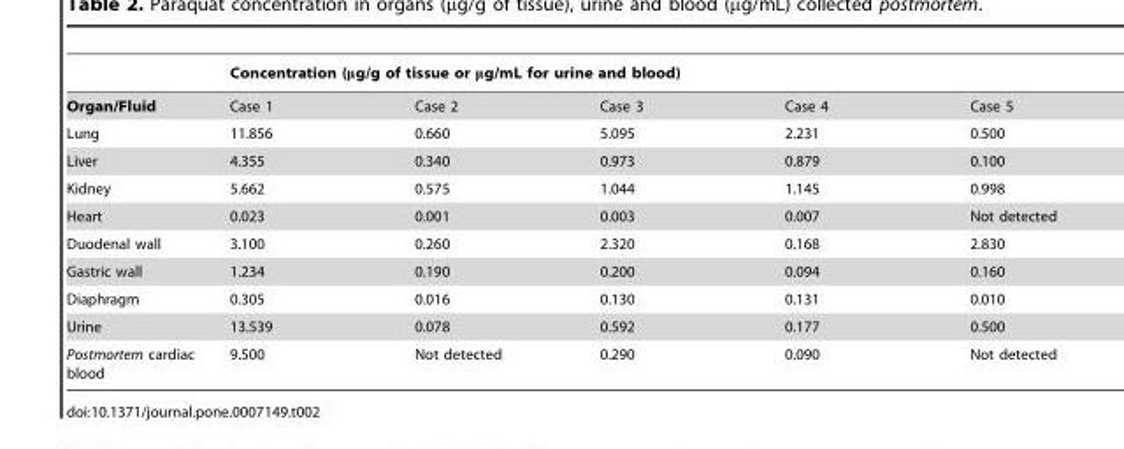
<table><thead><tr><td rowspan="2">Organ/Fluid</td><td colspan="5">Concentration (μg/g of tissue or μg/mL for urine and blood)</td></tr><tr><td>Case 1</td><td>Case 2</td><td>Case 3</td><td>Case 4</td><td>Case 5</td></tr></thead><tbody><tr><td>Lung</td><td>11.856</td><td>0.660</td><td>5.095</td><td>2.231</td><td>0.500</td></tr><tr><td>Liver</td><td>4.355</td><td>0.340</td><td>0.973</td><td>0.879</td><td>0.100</td></tr><tr><td>Kidney</td><td>5.662</td><td>0.575</td><td>1.044</td><td>1.145</td><td>0.998</td></tr><tr><td>Heart</td><td>0.023</td><td>0.001</td><td>0.003</td><td>0.007</td><td>Not detected</td></tr><tr><td>Duodenal wall</td><td>3.100</td><td>0.260</td><td>2.320</td><td>0.168</td><td>2.830</td></tr><tr><td>Gastric wall</td><td>1.234</td><td>0.190</td><td>0.200</td><td>0.094</td><td>0.160</td></tr><tr><td>Diaphragm</td><td>0.305</td><td>0.016</td><td>0.130</td><td>0.131</td><td>0.010</td></tr><tr><td>Urine</td><td>13.539</td><td>0.078</td><td>0.592</td><td>0.177</td><td>0.500</td></tr><tr><td>Postmortem cardiac blood</td><td>9.500</td><td>Not detected</td><td>0.290</td><td>0.090</td><td>Not detected</td></tr></tbody></table>